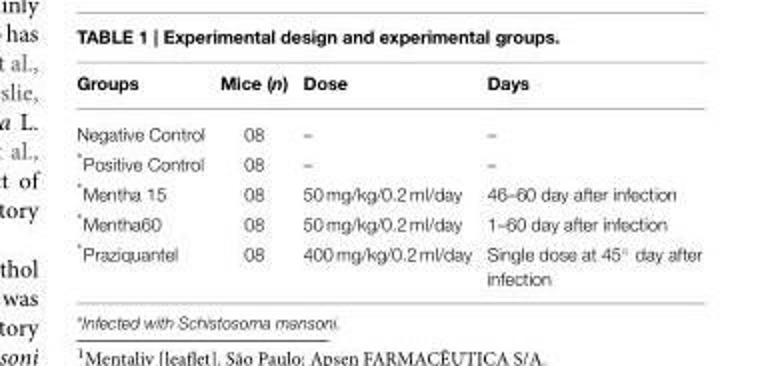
<table><thead><tr><td>Groups</td><td>Mice (n)</td><td>Dose</td><td>Days</td></tr></thead><tbody><tr><td>Negative Control</td><td>08</td><td>–</td><td>–</td></tr><tr><td>*Positive Control</td><td>08</td><td>–</td><td>–</td></tr><tr><td>*Mentha 15</td><td>08</td><td>50 mg/kg/0.2 ml/day</td><td>46–60 day after infection</td></tr><tr><td>*Mentha60</td><td>08</td><td>50 mg/kg/0.2 ml/day</td><td>1–60 day after infection</td></tr><tr><td>*Praziquantel</td><td>08</td><td>400 mg/kg/0.2 ml/day</td><td>Single dose at 45◦ day after infection</td></tr></tbody></table>